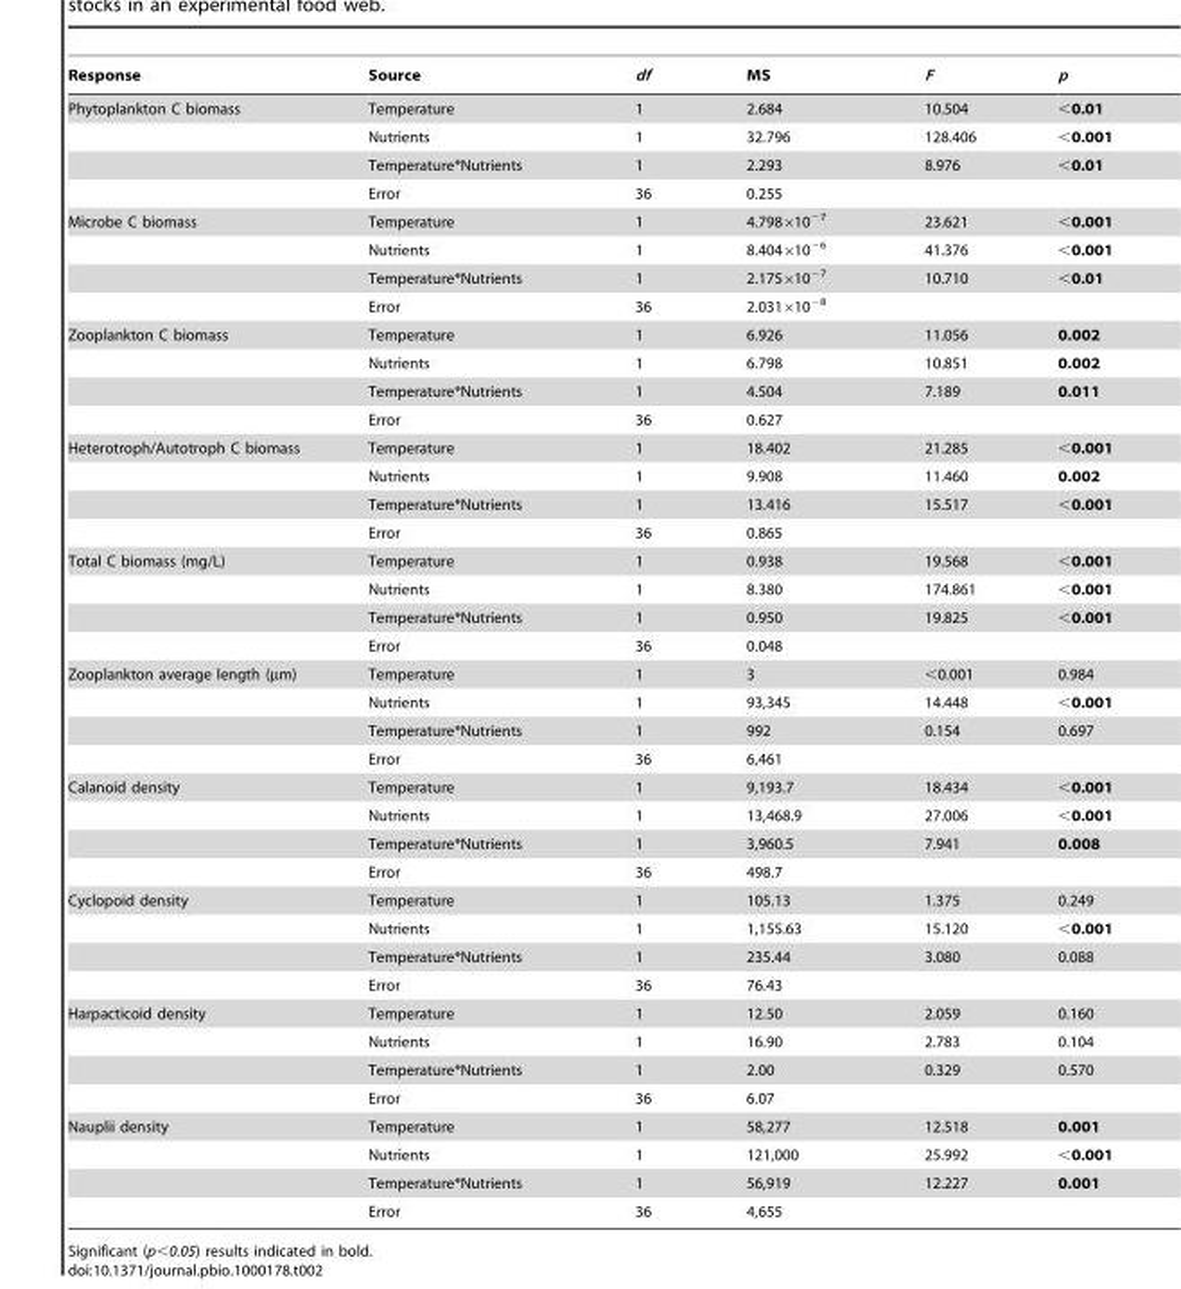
<table><thead><tr><td>Response</td><td>Source</td><td>df</td><td>MS</td><td>F</td><td>p</td></tr></thead><tbody><tr><td rowspan="4">Phytoplankton C biomass</td><td>Temperature</td><td>1</td><td>2.684</td><td>10.504</td><td>&lt;0.01</td></tr><tr><td>Nutrients</td><td>1</td><td>32.796</td><td>128.406</td><td>&lt;0.001</td></tr><tr><td>Temperature*Nutrients</td><td>1</td><td>2.293</td><td>8.976</td><td>&lt;0.01</td></tr><tr><td>Error</td><td>36</td><td>0.255</td><td></td><td></td></tr><tr><td rowspan="4">Microbe C biomass</td><td>Temperature</td><td>1</td><td>4.798×10<sup>−7</sup></td><td>23.621</td><td>&lt;0.001</td></tr><tr><td>Nutrients</td><td>1</td><td>8.404×10<sup>−6</sup></td><td>41.376</td><td>&lt;0.001</td></tr><tr><td>Temperature*Nutrients</td><td>1</td><td>2.175×10<sup>−7</sup></td><td>10.710</td><td>&lt;0.01</td></tr><tr><td>Error</td><td>36</td><td>2.031×10<sup>−8</sup></td><td></td><td></td></tr><tr><td rowspan="4">Zooplankton C biomass</td><td>Temperature</td><td>1</td><td>6.926</td><td>11.056</td><td>0.002</td></tr><tr><td>Nutrients</td><td>1</td><td>6.798</td><td>10.851</td><td>0.002</td></tr><tr><td>Temperature*Nutrients</td><td>1</td><td>4.504</td><td>7.189</td><td>0.011</td></tr><tr><td>Error</td><td>36</td><td>0.627</td><td></td><td></td></tr><tr><td rowspan="4">Heterotroph/Autotroph C biomass</td><td>Temperature</td><td>1</td><td>18.402</td><td>21.285</td><td>&lt;0.001</td></tr><tr><td>Nutrients</td><td>1</td><td>9.908</td><td>11.460</td><td>0.002</td></tr><tr><td>Temperature*Nutrients</td><td>1</td><td>13.416</td><td>15.517</td><td>&lt;0.001</td></tr><tr><td>Error</td><td>36</td><td>0.865</td><td></td><td></td></tr><tr><td rowspan="4">Total C biomass (mg/L)</td><td>Temperature</td><td>1</td><td>0.938</td><td>19.568</td><td>&lt;0.001</td></tr><tr><td>Nutrients</td><td>1</td><td>8.380</td><td>174.861</td><td>&lt;0.001</td></tr><tr><td>Temperature*Nutrients</td><td>1</td><td>0.950</td><td>19.825</td><td>&lt;0.001</td></tr><tr><td>Error</td><td>36</td><td>0.048</td><td></td><td></td></tr><tr><td rowspan="4">Zooplankton average length (µm)</td><td>Temperature</td><td>1</td><td>3</td><td>&lt;0.001</td><td>0.984</td></tr><tr><td>Nutrients</td><td>1</td><td>93,345</td><td>14.448</td><td>&lt;0.001</td></tr><tr><td>Temperature*Nutrients</td><td>1</td><td>992</td><td>0.154</td><td>0.697</td></tr><tr><td>Error</td><td>36</td><td>6,461</td><td></td><td></td></tr><tr><td rowspan="4">Calanoid density</td><td>Temperature</td><td>1</td><td>9,193.7</td><td>18.434</td><td>&lt;0.001</td></tr><tr><td>Nutrients</td><td>1</td><td>13,468.9</td><td>27.006</td><td>&lt;0.001</td></tr><tr><td>Temperature*Nutrients</td><td>1</td><td>3,960.5</td><td>7.941</td><td>0.008</td></tr><tr><td>Error</td><td>36</td><td>498.7</td><td></td><td></td></tr><tr><td rowspan="4">Cyclopoid density</td><td>Temperature</td><td>1</td><td>105.13</td><td>1.375</td><td>0.249</td></tr><tr><td>Nutrients</td><td>1</td><td>1,155.63</td><td>15.120</td><td>&lt;0.001</td></tr><tr><td>Temperature*Nutrients</td><td>1</td><td>235.44</td><td>3.080</td><td>0.088</td></tr><tr><td>Error</td><td>36</td><td>76.43</td><td></td><td></td></tr><tr><td rowspan="4">Harpacticoid density</td><td>Temperature</td><td>1</td><td>12.50</td><td>2.059</td><td>0.160</td></tr><tr><td>Nutrients</td><td>1</td><td>16.90</td><td>2.783</td><td>0.104</td></tr><tr><td>Temperature*Nutrients</td><td>1</td><td>2.00</td><td>0.329</td><td>0.570</td></tr><tr><td>Error</td><td>36</td><td>6.07</td><td></td><td></td></tr><tr><td rowspan="4">Nauplii density</td><td>Temperature</td><td>1</td><td>58,277</td><td>12.518</td><td>0.001</td></tr><tr><td>Nutrients</td><td>1</td><td>121,000</td><td>25.992</td><td>&lt;0.001</td></tr><tr><td>Temperature*Nutrients</td><td>1</td><td>56,919</td><td>12.227</td><td>0.001</td></tr><tr><td>Error</td><td>36</td><td>4,655</td><td></td><td></td></tr></tbody></table>